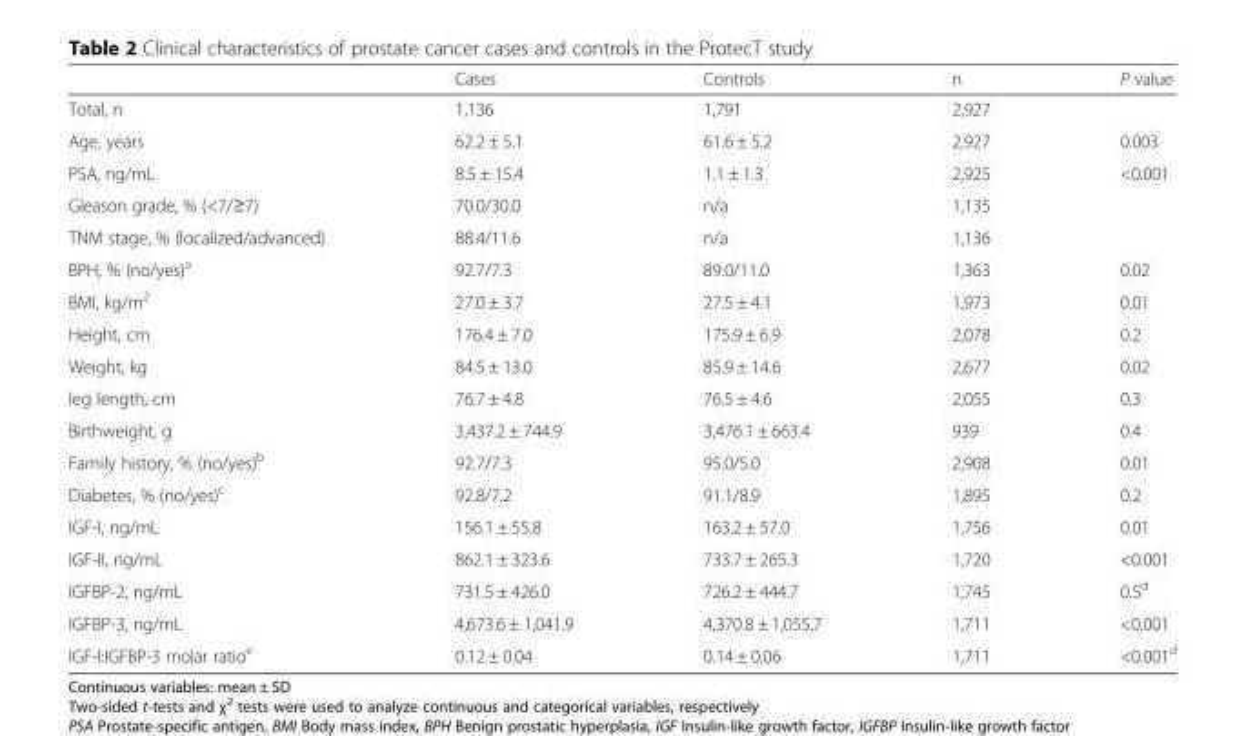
<table><thead><tr><td></td><td>Cases</td><td>Controls</td><td>n</td><td>P value</td></tr></thead><tbody><tr><td>Total, n</td><td>1,136</td><td>1,791</td><td>2,927</td><td></td></tr><tr><td>Age, years</td><td>62.2 ± 5.1</td><td>61.6 ± 5.2</td><td>2,927</td><td>0.003</td></tr><tr><td>PSA, ng/mL</td><td>8.5 ± 15.4</td><td>1.1 ± 1.3</td><td>2,925</td><td>&lt;0.001</td></tr><tr><td>Gleason grade, % (&lt;7/≥7)</td><td>70.0/30.0</td><td>n/a</td><td>1,135</td><td></td></tr><tr><td>TNM stage, % (localized/advanced)</td><td>88.4/11.6</td><td>n/a</td><td>1,136</td><td></td></tr><tr><td>BPH, % (no/yes)<sup>a</sup></td><td>92.7/7.3</td><td>89.0/11.0</td><td>1,363</td><td>0.02</td></tr><tr><td>BMI, kg/m<sup>2</sup></td><td>27.0 ± 3.7</td><td>27.5 ± 4.1</td><td>1,973</td><td>0.01</td></tr><tr><td>Height, cm</td><td>176.4 ± 7.0</td><td>175.9 ± 6.9</td><td>2,078</td><td>0.2</td></tr><tr><td>Weight, kg</td><td>84.5 ± 13.0</td><td>85.9 ± 14.6</td><td>2,677</td><td>0.02</td></tr><tr><td>leg length, cm</td><td>76.7 ± 4.8</td><td>76.5 ± 4.6</td><td>2,055</td><td>0.3</td></tr><tr><td>Birthweight, g</td><td>3,437.2 ± 744.9</td><td>3,476.1 ± 663.4</td><td>939</td><td>0.4</td></tr><tr><td>Family history, % (no/yes)<sup>b</sup></td><td>92.7/7.3</td><td>95.0/5.0</td><td>2,908</td><td>0.01</td></tr><tr><td>Diabetes, % (no/yes)<sup>c</sup></td><td>92.8/7.2</td><td>91.1/8.9</td><td>1,895</td><td>0.2</td></tr><tr><td>IGF-I, ng/mL</td><td>156.1 ± 55.8</td><td>163.2 ± 57.0</td><td>1,756</td><td>0.01</td></tr><tr><td>IGF-II, ng/mL</td><td>862.1 ± 323.6</td><td>733.7 ± 265.3</td><td>1,720</td><td>&lt;0.001</td></tr><tr><td>IGFBP-2, ng/mL</td><td>731.5 ± 426.0</td><td>726.2 ± 444.7</td><td>1,745</td><td>0.5<sup>d</sup></td></tr><tr><td>IGFBP-3, ng/mL</td><td>4,673.6 ± 1,041.9</td><td>4,370.8 ± 1,055.7</td><td>1,711</td><td>&lt;0.001</td></tr><tr><td>IGF-I:IGFBP-3 molar ratio<sup>e</sup></td><td>0.12 ± 0.04</td><td>0.14 ± 0.06</td><td>1,711</td><td>&lt;0.001<sup>d</sup></td></tr></tbody></table>